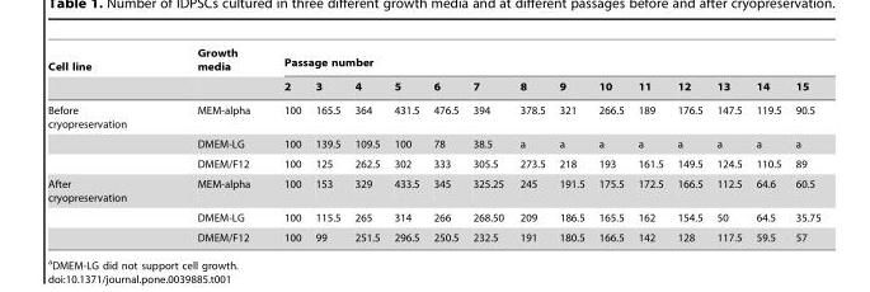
<table><thead><tr><td rowspan="2">Cell line</td><td rowspan="2">Growth media</td><td colspan="14">Passage number</td></tr><tr><td>2</td><td>3</td><td>4</td><td>5</td><td>6</td><td>7</td><td>8</td><td>9</td><td>10</td><td>11</td><td>12</td><td>13</td><td>14</td><td>15</td></tr></thead><tbody><tr><td rowspan="3">Before cryopreservation</td><td>MEM-alpha</td><td>100</td><td>165.5</td><td>364</td><td>431.5</td><td>476.5</td><td>394</td><td>378.5</td><td>321</td><td>266.5</td><td>189</td><td>176.5</td><td>147.5</td><td>119.5</td><td>90.5</td></tr><tr><td>DMEM-LG</td><td>100</td><td>139.5</td><td>109.5</td><td>100</td><td>78</td><td>38.5</td><td>a</td><td>a</td><td>a</td><td>a</td><td>a</td><td>a</td><td>a</td><td>a</td></tr><tr><td>DMEM/F12</td><td>100</td><td>125</td><td>262.5</td><td>302</td><td>333</td><td>305.5</td><td>273.5</td><td>218</td><td>193</td><td>161.5</td><td>149.5</td><td>124.5</td><td>110.5</td><td>89</td></tr><tr><td rowspan="3">After cryopreservation</td><td>MEM-alpha</td><td>100</td><td>153</td><td>329</td><td>433.5</td><td>345</td><td>325.25</td><td>245</td><td>191.5</td><td>175.5</td><td>172.5</td><td>166.5</td><td>112.5</td><td>64.6</td><td>60.5</td></tr><tr><td>DMEM-LG</td><td>100</td><td>115.5</td><td>265</td><td>314</td><td>266</td><td>268.50</td><td>209</td><td>186.5</td><td>165.5</td><td>162</td><td>154.5</td><td>50</td><td>64.5</td><td>35.75</td></tr><tr><td>DMEM/F12</td><td>100</td><td>99</td><td>251.5</td><td>296.5</td><td>250.5</td><td>232.5</td><td>191</td><td>180.5</td><td>166.5</td><td>142</td><td>128</td><td>117.5</td><td>59.5</td><td>57</td></tr></tbody></table>